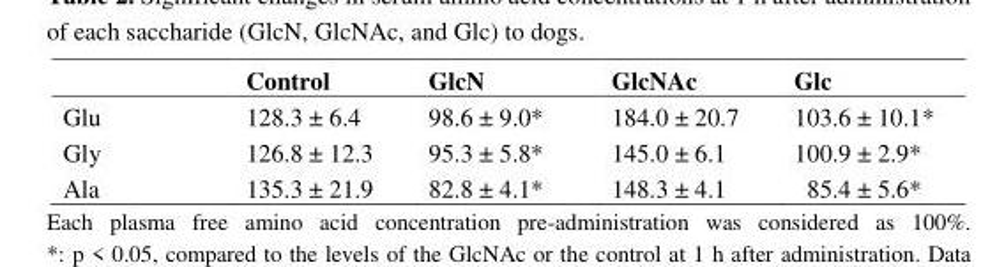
<table><thead><tr><td></td><td>Control</td><td>GlcN</td><td>GlcNAc</td><td>Glc</td></tr></thead><tbody><tr><td>Glu</td><td>128.3 ± 6.4</td><td>98.6 ± 9.0*</td><td>184.0 ± 20.7</td><td>103.6 ± 10.1*</td></tr><tr><td>Gly</td><td>126.8 ± 12.3</td><td>95.3 ± 5.8*</td><td>145.0 ± 6.1</td><td>100.9 ± 2.9*</td></tr><tr><td>Ala</td><td>135.3 ± 21.9</td><td>82.8 ± 4.1*</td><td>148.3 ± 4.1</td><td>85.4 ± 5.6*</td></tr></tbody></table>